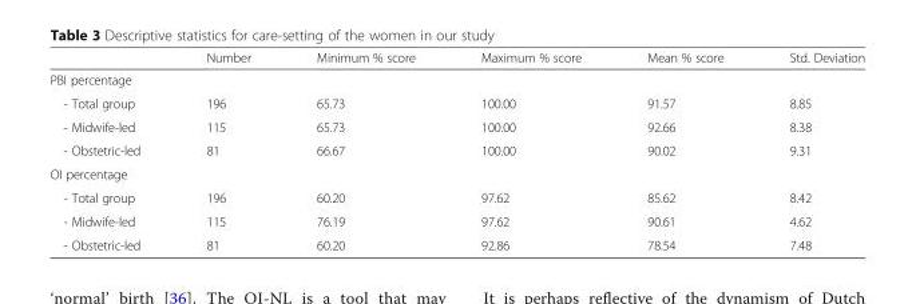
<table><thead><tr><td></td><td>Number</td><td>Minimum % score</td><td>Maximum % score</td><td>Mean % score</td><td>Std. Deviation</td></tr></thead><tbody><tr><td colspan="6">PBI percentage</td></tr><tr><td>- Total group</td><td>196</td><td>65.73</td><td>100.00</td><td>91.57</td><td>8.85</td></tr><tr><td>- Midwife-led</td><td>115</td><td>65.73</td><td>100.00</td><td>92.66</td><td>8.38</td></tr><tr><td>- Obstetric-led</td><td>81</td><td>66.67</td><td>100.00</td><td>90.02</td><td>9.31</td></tr><tr><td colspan="6">OI percentage</td></tr><tr><td>- Total group</td><td>196</td><td>60.20</td><td>97.62</td><td>85.62</td><td>8.42</td></tr><tr><td>- Midwife-led</td><td>115</td><td>76.19</td><td>97.62</td><td>90.61</td><td>4.62</td></tr><tr><td>- Obstetric-led</td><td>81</td><td>60.20</td><td>92.86</td><td>78.54</td><td>7.48</td></tr></tbody></table>